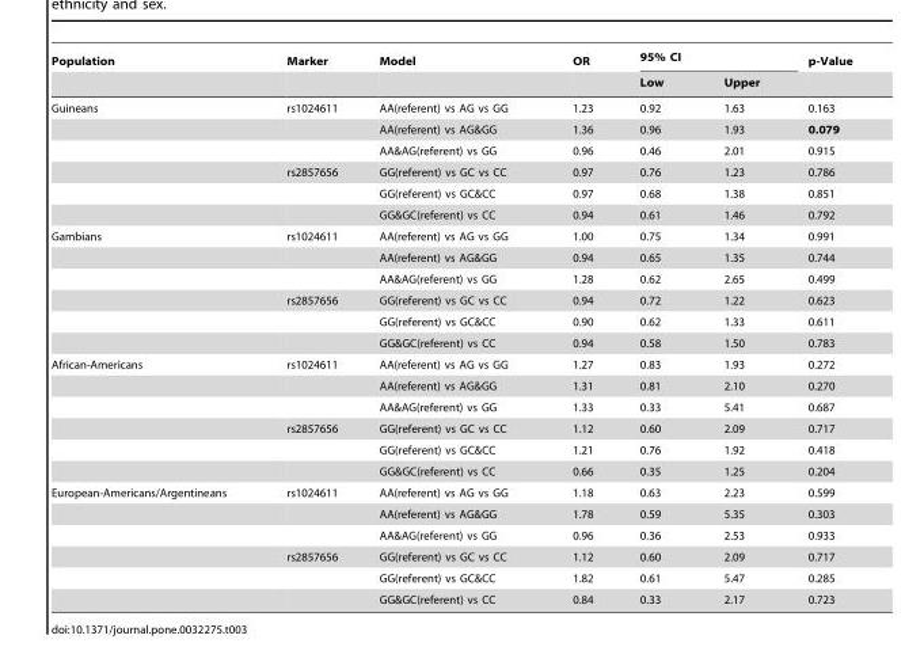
<table><thead><tr><td rowspan="2">Population</td><td rowspan="2">Marker</td><td rowspan="2">Model</td><td rowspan="2">OR</td><td colspan="2">95% CI</td><td rowspan="2">p-Value</td></tr><tr><td>Low</td><td>Upper</td></tr></thead><tbody><tr><td rowspan="6">Guineans</td><td>rs1024611</td><td>AA(referent) vs AG vs GG</td><td>1.23</td><td>0.92</td><td>1.63</td><td>0.163</td></tr><tr><td></td><td>AA(referent) vs AG&amp;GG</td><td>1.36</td><td>0.96</td><td>1.93</td><td>0.079</td></tr><tr><td></td><td>AA&amp;AG(referent) vs GG</td><td>0.96</td><td>0.46</td><td>2.01</td><td>0.915</td></tr><tr><td>rs2857656</td><td>GG(referent) vs GC vs CC</td><td>0.97</td><td>0.76</td><td>1.23</td><td>0.786</td></tr><tr><td></td><td>GG(referent) vs GC&amp;CC</td><td>0.97</td><td>0.68</td><td>1.38</td><td>0.851</td></tr><tr><td></td><td>GG&amp;GC(referent) vs CC</td><td>0.94</td><td>0.61</td><td>1.46</td><td>0.792</td></tr><tr><td rowspan="6">Gambians</td><td>rs1024611</td><td>AA(referent) vs AG vs GG</td><td>1.00</td><td>0.75</td><td>1.34</td><td>0.991</td></tr><tr><td></td><td>AA(referent) vs AG&amp;GG</td><td>0.94</td><td>0.65</td><td>1.35</td><td>0.744</td></tr><tr><td></td><td>AA&amp;AG(referent) vs GG</td><td>1.28</td><td>0.62</td><td>2.65</td><td>0.499</td></tr><tr><td>rs2857656</td><td>GG(referent) vs GC vs CC</td><td>0.94</td><td>0.72</td><td>1.22</td><td>0.623</td></tr><tr><td></td><td>GG(referent) vs GC&amp;CC</td><td>0.90</td><td>0.62</td><td>1.33</td><td>0.611</td></tr><tr><td></td><td>GG&amp;GC(referent) vs CC</td><td>0.94</td><td>0.58</td><td>1.50</td><td>0.783</td></tr><tr><td rowspan="6">African-Americans</td><td>rs1024611</td><td>AA(referent) vs AG vs GG</td><td>1.27</td><td>0.83</td><td>1.93</td><td>0.272</td></tr><tr><td></td><td>AA(referent) vs AG&amp;GG</td><td>1.31</td><td>0.81</td><td>2.10</td><td>0.270</td></tr><tr><td></td><td>AA&amp;AG(referent) vs GG</td><td>1.33</td><td>0.33</td><td>5.41</td><td>0.687</td></tr><tr><td>rs2857656</td><td>GG(referent) vs GC vs CC</td><td>1.12</td><td>0.60</td><td>2.09</td><td>0.717</td></tr><tr><td></td><td>GG(referent) vs GC&amp;CC</td><td>1.21</td><td>0.76</td><td>1.92</td><td>0.418</td></tr><tr><td></td><td>GG&amp;GC(referent) vs CC</td><td>0.66</td><td>0.35</td><td>1.25</td><td>0.204</td></tr><tr><td rowspan="6">European-Americans/Argentineans</td><td>rs1024611</td><td>AA(referent) vs AG vs GG</td><td>1.18</td><td>0.63</td><td>2.23</td><td>0.599</td></tr><tr><td></td><td>AA(referent) vs AG&amp;GG</td><td>1.78</td><td>0.59</td><td>5.35</td><td>0.303</td></tr><tr><td></td><td>AA&amp;AG(referent) vs GG</td><td>0.96</td><td>0.36</td><td>2.53</td><td>0.933</td></tr><tr><td>rs2857656</td><td>GG(referent) vs GC vs CC</td><td>1.12</td><td>0.60</td><td>2.09</td><td>0.717</td></tr><tr><td></td><td>GG(referent) vs GC&amp;CC</td><td>1.82</td><td>0.61</td><td>5.47</td><td>0.285</td></tr><tr><td></td><td>GG&amp;GC(referent) vs CC</td><td>0.84</td><td>0.33</td><td>2.17</td><td>0.723</td></tr></tbody></table>